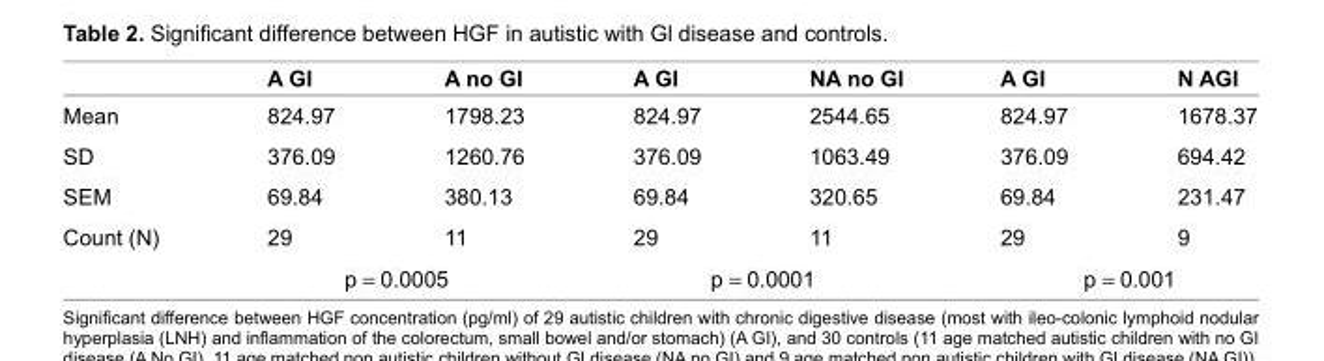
<table><thead><tr><td></td><td>A GI</td><td>A no GI</td><td>A GI</td><td>nA no GI</td><td>A GI</td><td>n AGI</td></tr></thead><tbody><tr><td>Mean</td><td>824.97</td><td>1798.23</td><td>824.97</td><td>2544.65</td><td>824.97</td><td>1678.37</td></tr><tr><td>sD</td><td>376.09</td><td>1260.76</td><td>376.09</td><td>1063.49</td><td>376.09</td><td>694.42</td></tr><tr><td>seM</td><td>69.84</td><td>380.13</td><td>69.84</td><td>320.65</td><td>69.84</td><td>231.47</td></tr><tr><td rowspan="2">count (n)</td><td>29</td><td>11</td><td>29</td><td>11</td><td>29</td><td>9</td></tr><tr><td colspan="2">p = 0.0005</td><td colspan="2">p = 0.0001</td><td colspan="2">p = 0.001</td></tr></tbody></table>